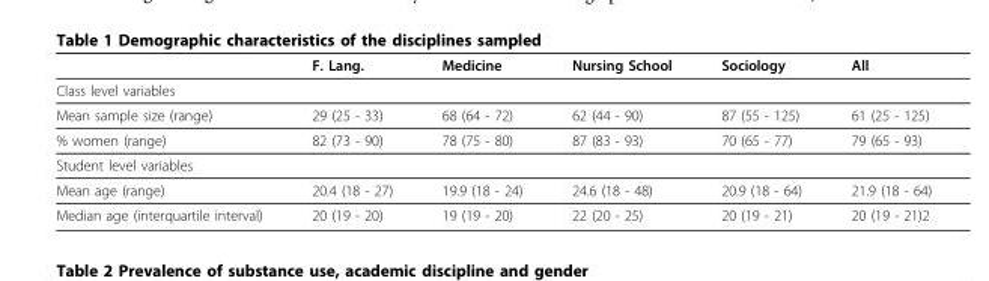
<table><thead><tr><td></td><td>F. Lang.</td><td>Medicine</td><td>Nursing School</td><td>Sociology</td><td>All</td></tr></thead><tbody><tr><td colspan="6">Class level variables</td></tr><tr><td>Mean sample size (range)</td><td>29 (25 - 33)</td><td>68 (64 - 72)</td><td>62 (44 - 90)</td><td>87 (55 - 125)</td><td>61 (25 - 125)</td></tr><tr><td>% women (range)</td><td>82 (73 - 90)</td><td>78 (75 - 80)</td><td>87 (83 - 93)</td><td>70 (65 - 77)</td><td>79 (65 - 93)</td></tr><tr><td colspan="6">Student level variables</td></tr><tr><td>Mean age (range)</td><td>20.4 (18 - 27)</td><td>19.9 (18 - 24)</td><td>24.6 (18 - 48)</td><td>20.9 (18 - 64)</td><td>21.9 (18 - 64)</td></tr><tr><td>Median age (interquartile interval)</td><td>20 (19 - 20)</td><td>19 (19 - 20)</td><td>22 (20 - 25)</td><td>20 (19 - 21)</td><td>20 (19 - 21)2</td></tr></tbody></table>